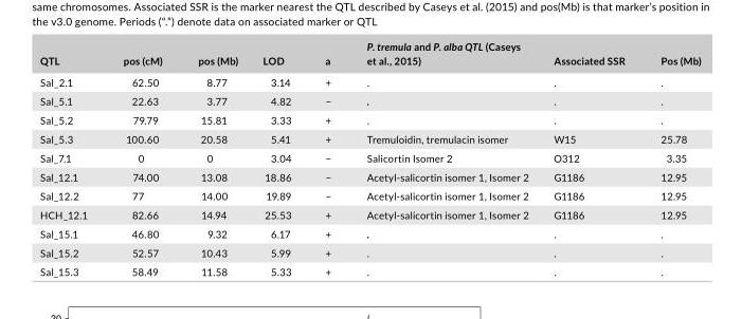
<table><thead><tr><td>QTL</td><td>pos (cM)</td><td>pos (Mb)</td><td>LOD</td><td>a</td><td>P. tremula and P. alba QTL (Caseys et al., 2015)</td><td>Associated SSR</td><td>Pos (Mb)</td></tr></thead><tbody><tr><td>Sal_2.1</td><td>62.50</td><td>8.77</td><td>3.14</td><td>+</td><td>.</td><td>.</td><td>.</td></tr><tr><td>Sal_5.1</td><td>22.63</td><td>3.77</td><td>4.82</td><td>−</td><td>.</td><td>.</td><td>.</td></tr><tr><td>Sal_5.2</td><td>79.79</td><td>15.81</td><td>3.33</td><td>+</td><td>.</td><td>.</td><td>.</td></tr><tr><td>Sal_5.3</td><td>100.60</td><td>20.58</td><td>5.41</td><td>+</td><td>Tremuloidin, tremulacin isomer</td><td>W15</td><td>25.78</td></tr><tr><td>Sal_7.1</td><td>0</td><td>0</td><td>3.04</td><td>−</td><td>Salicortin Isomer 2</td><td>O312</td><td>3.35</td></tr><tr><td>Sal_12.1</td><td>74.00</td><td>13.08</td><td>18.86</td><td>−</td><td>Acetyl- salicortin isomer 1, Isomer 2</td><td>G1186</td><td>12.95</td></tr><tr><td>Sal_12.2</td><td>77</td><td>14.00</td><td>19.89</td><td>−</td><td>Acetyl- salicortin isomer 1, Isomer 2</td><td>G1186</td><td>12.95</td></tr><tr><td>HCH_12.1</td><td>82.66</td><td>14.94</td><td>25.53</td><td>+</td><td>Acetyl- salicortin isomer 1, Isomer 2</td><td>G1186</td><td>12.95</td></tr><tr><td>Sal_15.1</td><td>46.80</td><td>9.32</td><td>6.17</td><td>+</td><td>.</td><td>.</td><td>.</td></tr><tr><td>Sal_15.2</td><td>52.57</td><td>10.43</td><td>5.99</td><td>+</td><td>.</td><td>.</td><td>.</td></tr><tr><td>Sal_15.3</td><td>58.49</td><td>11.58</td><td>5.33</td><td>+</td><td>.</td><td>.</td><td>.</td></tr></tbody></table>